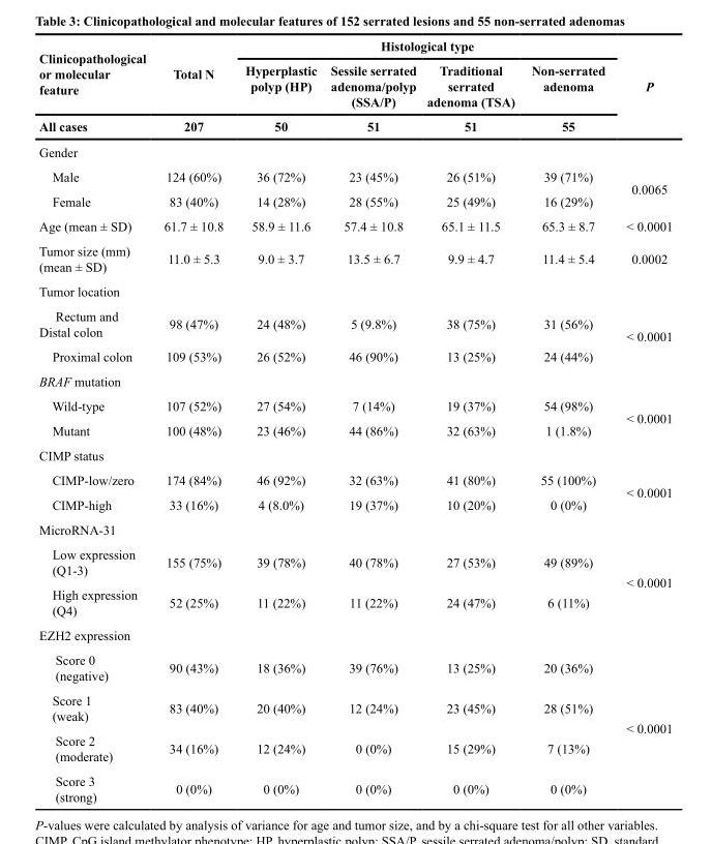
<table><thead><tr><td rowspan="3">Clinicopathological or molecular feature All cases</td><td rowspan="3">Total N 207</td><td colspan="4">Histological type</td><td rowspan="3">P</td></tr><tr><td rowspan="2">Hyperplastic polyp (HP) 50</td><td rowspan="2">Sessile serrated adenoma/polyp (SSA/P) 51</td><td rowspan="2">Traditional serrated adenoma (TSA) 51</td><td rowspan="2">Non-serrated adenoma 55</td></tr><tr></tr></thead><tbody><tr><td colspan="7">Gender</td></tr><tr><td>Male</td><td>124 (60%)</td><td>36 (72%)</td><td>23 (45%)</td><td>26 (51%)</td><td>39 (71%)</td><td rowspan="2">0.0065</td></tr><tr><td>Female</td><td>83 (40%)</td><td>14 (28%)</td><td>28 (55%)</td><td>25 (49%)</td><td>16 (29%)</td></tr><tr><td>Age (mean ± SD)</td><td>61.7 ± 10.8</td><td>58.9 ± 11.6</td><td>57.4 ± 10.8</td><td>65.1 ± 11.5</td><td>65.3 ± 8.7</td><td>&lt; 0.0001</td></tr><tr><td>Tumor size (mm) (mean ± SD)</td><td>11.0 ± 5.3</td><td>9.0 ± 3.7</td><td>13.5 ± 6.7</td><td>9.9 ± 4.7</td><td>11.4 ± 5.4</td><td>0.0002</td></tr><tr><td colspan="7">Tumor location</td></tr><tr><td>Rectum and Distal colon</td><td>98 (47%)</td><td>24 (48%)</td><td>5 (9.8%)</td><td>38 (75%)</td><td>31 (56%)</td><td rowspan="2">&lt; 0.0001</td></tr><tr><td>Proximal colon</td><td>109 (53%)</td><td>26 (52%)</td><td>46 (90%)</td><td>13 (25%)</td><td>24 (44%)</td></tr><tr><td colspan="7">BRAF mutation</td></tr><tr><td>Wild-type</td><td>107 (52%)</td><td>27 (54%)</td><td>7 (14%)</td><td>19 (37%)</td><td>54 (98%)</td><td rowspan="2">&lt; 0.0001</td></tr><tr><td>Mutant</td><td>100 (48%)</td><td>23 (46%)</td><td>44 (86%)</td><td>32 (63%)</td><td>1 (1.8%)</td></tr><tr><td colspan="7">CIMP status</td></tr><tr><td>CIMP-low/zero</td><td>174 (84%)</td><td>46 (92%)</td><td>32 (63%)</td><td>41 (80%)</td><td>55 (100%)</td><td rowspan="2">&lt; 0.0001</td></tr><tr><td>CIMP-high</td><td>33 (16%)</td><td>4 (8.0%)</td><td>19 (37%)</td><td>10 (20%)</td><td>0 (0%)</td></tr><tr><td colspan="7">MicroRNA-31</td></tr><tr><td>Low expression (Q1-3)</td><td>155 (75%)</td><td>39 (78%)</td><td>40 (78%)</td><td>27 (53%)</td><td>49 (89%)</td><td rowspan="2">&lt; 0.0001</td></tr><tr><td>High expression (Q4)</td><td>52 (25%)</td><td>11 (22%)</td><td>11 (22%)</td><td>24 (47%)</td><td>6 (11%)</td></tr><tr><td colspan="7">EZH2 expression</td></tr><tr><td>Score 0 (negative)</td><td>90 (43%)</td><td>18 (36%)</td><td>39 (76%)</td><td>13 (25%)</td><td>20 (36%)</td><td rowspan="4">&lt; 0.0001</td></tr><tr><td>Score 1 (weak)</td><td>83 (40%)</td><td>20 (40%)</td><td>12 (24%)</td><td>23 (45%)</td><td>28 (51%)</td></tr><tr><td>Score 2 (moderate)</td><td>34 (16%)</td><td>12 (24%)</td><td>0 (0%)</td><td>15 (29%)</td><td>7 (13%)</td></tr><tr><td>Score 3 (strong)</td><td>0 (0%)</td><td>0 (0%)</td><td>0 (0%)</td><td>0 (0%)</td><td>0 (0%)</td></tr></tbody></table>